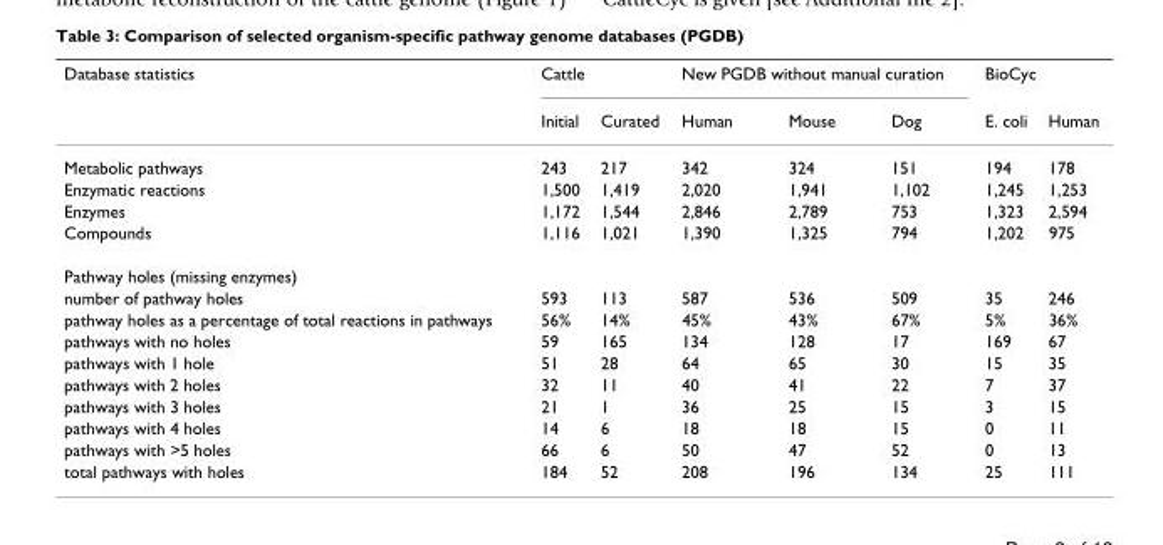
<table><thead><tr><td rowspan="2">Database statistics</td><td colspan="2">Cattle</td><td colspan="3">New PGDB without manual curation</td><td colspan="2">BioCyc</td></tr><tr><td>Initial</td><td>Curated</td><td>Human</td><td>Mouse</td><td>Dog</td><td>E. coli</td><td>Human</td></tr></thead><tbody><tr><td>Metabolic pathways</td><td>243</td><td>217</td><td>342</td><td>324</td><td>151</td><td>194</td><td>178</td></tr><tr><td>Enzymatic reactions</td><td>1,500</td><td>1,419</td><td>2,020</td><td>1,941</td><td>1,102</td><td>1,245</td><td>1,253</td></tr><tr><td>Enzymes</td><td>1,172</td><td>1,544</td><td>2,846</td><td>2,789</td><td>753</td><td>1,323</td><td>2,594</td></tr><tr><td>Compounds</td><td>1,116</td><td>1,021</td><td>1,390</td><td>1,325</td><td>794</td><td>1,202</td><td>975</td></tr><tr><td colspan="8">Pathway holes (missing enzymes)</td></tr><tr><td>number of pathway holes</td><td>593</td><td>113</td><td>587</td><td>536</td><td>509</td><td>35</td><td>246</td></tr><tr><td>pathway holes as a percentage of total reactions in pathways</td><td>56%</td><td>14%</td><td>45%</td><td>43%</td><td>67%</td><td>5%</td><td>36%</td></tr><tr><td>pathways with no holes</td><td>59</td><td>165</td><td>134</td><td>128</td><td>17</td><td>169</td><td>67</td></tr><tr><td>pathways with 1 hole</td><td>51</td><td>28</td><td>64</td><td>65</td><td>30</td><td>15</td><td>35</td></tr><tr><td>pathways with 2 holes</td><td>32</td><td>11</td><td>40</td><td>41</td><td>22</td><td>7</td><td>37</td></tr><tr><td>pathways with 3 holes</td><td>21</td><td>1</td><td>36</td><td>25</td><td>15</td><td>3</td><td>15</td></tr><tr><td>pathways with 4 holes</td><td>14</td><td>6</td><td>18</td><td>18</td><td>15</td><td>0</td><td>11</td></tr><tr><td>pathways with &gt;5 holes</td><td>66</td><td>6</td><td>50</td><td>47</td><td>52</td><td>0</td><td>13</td></tr><tr><td>total pathways with holes</td><td>184</td><td>52</td><td>208</td><td>196</td><td>134</td><td>25</td><td>111</td></tr></tbody></table>